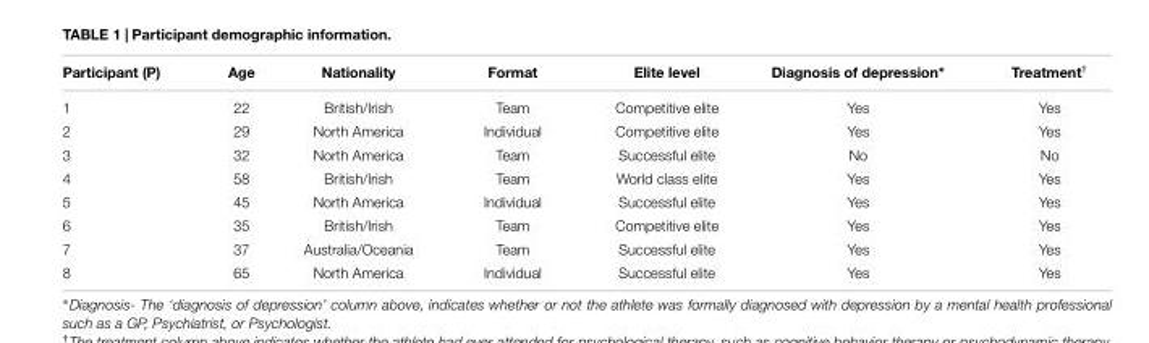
<table><thead><tr><td>Participant (P)</td><td>Age</td><td>Nationality</td><td>Format</td><td>Elite level</td><td>Diagnosis of depression∗</td><td>Treatment<sup>†</sup></td></tr></thead><tbody><tr><td>1</td><td>22</td><td>British/Irish</td><td>Team</td><td>Competitive elite</td><td>Yes</td><td>Yes</td></tr><tr><td>2</td><td>29</td><td>North America</td><td>Individual</td><td>Competitive elite</td><td>Yes</td><td>Yes</td></tr><tr><td>3</td><td>32</td><td>North America</td><td>Team</td><td>Successful elite</td><td>No</td><td>No</td></tr><tr><td>4</td><td>58</td><td>British/Irish</td><td>Team</td><td>World class elite</td><td>Yes</td><td>Yes</td></tr><tr><td>5</td><td>45</td><td>North America</td><td>Individual</td><td>Successful elite</td><td>Yes</td><td>Yes</td></tr><tr><td>6</td><td>35</td><td>British/Irish</td><td>Team</td><td>Competitive elite</td><td>Yes</td><td>Yes</td></tr><tr><td>7</td><td>37</td><td>Australia/Oceania</td><td>Team</td><td>Successful elite</td><td>Yes</td><td>Yes</td></tr><tr><td>8</td><td>65</td><td>North America</td><td>Individual</td><td>Successful elite</td><td>Yes</td><td>Yes</td></tr></tbody></table>